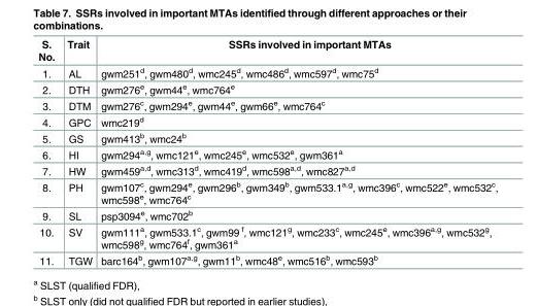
<table><thead><tr><td>S. No.</td><td>Trait</td><td>SSRs involved in important MTAs</td></tr></thead><tbody><tr><td>1.</td><td>AL</td><td>gwm251<sup>d</sup>, gwm480<sup>d</sup>, wmc245<sup>d</sup>, wmc486<sup>d</sup>, wmc597<sup>d</sup>, wmc75<sup>d</sup></td></tr><tr><td>2.</td><td>DTH</td><td>gwm276<sup>e</sup>, gwm44<sup>e</sup>, wmc764<sup>e</sup></td></tr><tr><td>3.</td><td>DTM</td><td>gwm276<sup>c</sup>, gwm294<sup>e</sup>, gwm44<sup>e</sup>, gwm66<sup>e</sup>, wmc764<sup>c</sup></td></tr><tr><td>4.</td><td>GPC</td><td>wmc219<sup>d</sup></td></tr><tr><td>5.</td><td>GS</td><td>gwm413<sup>b</sup>, wmc24<sup>b</sup></td></tr><tr><td>6.</td><td>HI</td><td>gwm294<sup>a,g</sup>, wmc121<sup>e</sup>, wmc245<sup>e</sup>, wmc532<sup>e</sup>, gwm361<sup>a</sup></td></tr><tr><td>7.</td><td>HW</td><td>gwm459<sup>a,d</sup>, wmc313<sup>d</sup>, wmc419<sup>d</sup>, wmc598<sup>a,d</sup>, wmc827<sup>a,d</sup></td></tr><tr><td>8.</td><td>PH</td><td>gwm107<sup>c</sup>, gwm294<sup>e</sup>, gwm296<sup>b</sup>, gwm349<sup>b</sup>, gwm533.1<sup>a,g</sup>, wmc396<sup>c</sup>, wmc522<sup>e</sup>, wmc532<sup>c</sup>, wmc598<sup>e</sup>, wmc764<sup>c</sup></td></tr><tr><td>9.</td><td>SL</td><td>psp3094<sup>e</sup>, wmc702<sup>b</sup></td></tr><tr><td>10.</td><td>SV</td><td>gwm111<sup>a</sup>, gwm533.1<sup>c</sup>, gwm99 <sup>f</sup>, wmc121<sup>g</sup>, wmc233<sup>c</sup>, wmc245<sup>e</sup>, wmc396<sup>a,g</sup>, wmc532<sup>g</sup>, wmc598<sup>g</sup>, wmc764<sup>f</sup>, gwm361<sup>a</sup></td></tr><tr><td>11.</td><td>TGW</td><td>barc164<sup>b</sup>, gwm107<sup>a,g</sup>, gwm11<sup>b</sup>, wmc48<sup>e</sup>, wmc516<sup>b</sup>, wmc593<sup>b</sup></td></tr></tbody></table>